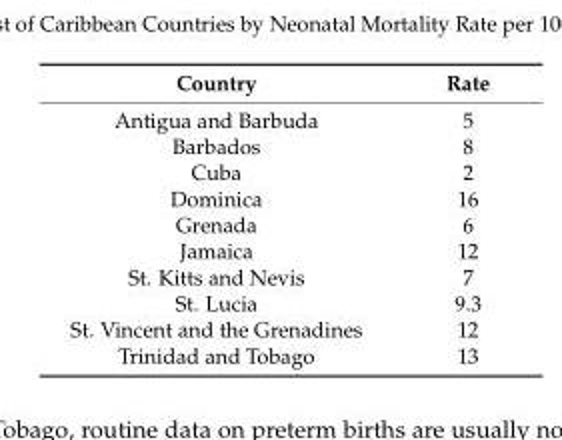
<table><thead><tr><td>Country</td><td>Rate</td></tr></thead><tbody><tr><td>Antigua and Barbuda</td><td>5</td></tr><tr><td>Barbados</td><td>8</td></tr><tr><td>Cuba</td><td>2</td></tr><tr><td>Dominica</td><td>16</td></tr><tr><td>Grenada</td><td>6</td></tr><tr><td>Jamaica</td><td>12</td></tr><tr><td>St. Kitts and Nevis</td><td>7</td></tr><tr><td>St. Lucia</td><td>9.3</td></tr><tr><td>St. Vincent and the Grenadines</td><td>12</td></tr><tr><td>Trinidad and Tobago</td><td>13</td></tr></tbody></table>